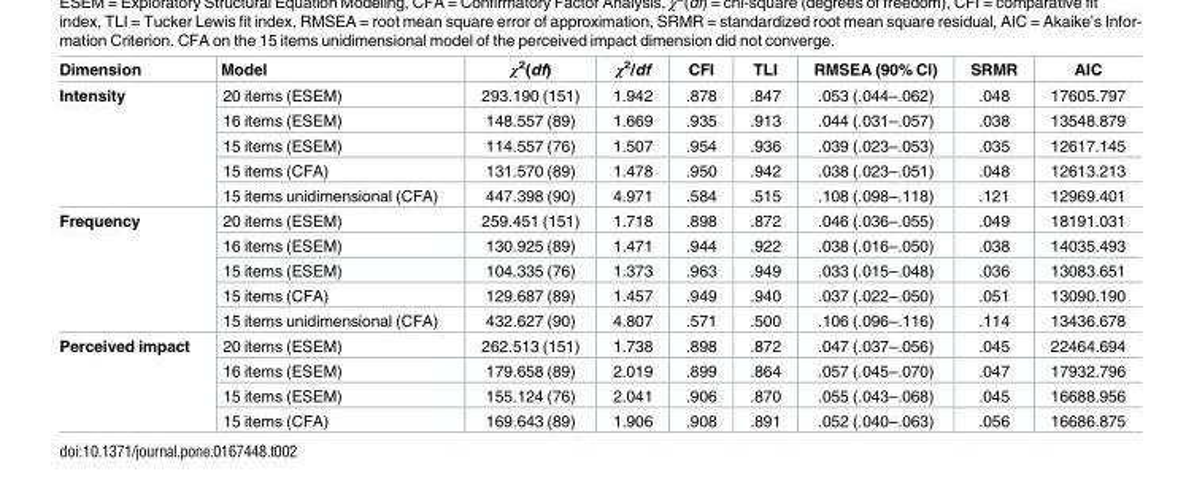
<table><thead><tr><td>Dimension</td><td>Model</td><td>χ<sup>2</sup>(df)</td><td>χ<sup>2</sup>/df</td><td>CFI</td><td>TLI</td><td>RMSEA (90% CI)</td><td>SRMR</td><td>AIC</td></tr></thead><tbody><tr><td rowspan="5">Intensity</td><td>20 items (ESEM)</td><td>293.190 (151)</td><td>1.942</td><td>.878</td><td>.847</td><td>.053 (.044–.062)</td><td>.048</td><td>17605.797</td></tr><tr><td>16 items (ESEM)</td><td>148.557 (89)</td><td>1.669</td><td>.935</td><td>.913</td><td>.044 (.031–.057)</td><td>.038</td><td>13548.879</td></tr><tr><td>15 items (ESEM)</td><td>114.557 (76)</td><td>1.507</td><td>.954</td><td>.936</td><td>.039 (.023–.053)</td><td>.035</td><td>12617.145</td></tr><tr><td>15 items (CFA)</td><td>131.570 (89)</td><td>1.478</td><td>.950</td><td>.942</td><td>.038 (.023–.051)</td><td>.048</td><td>12613.213</td></tr><tr><td>15 items unidimensional (CFA)</td><td>447.398 (90)</td><td>4.971</td><td>.584</td><td>.515</td><td>.108 (.098–.118)</td><td>.121</td><td>12969.401</td></tr><tr><td rowspan="5">Frequency</td><td>20 items (ESEM)</td><td>259.451 (151)</td><td>1.718</td><td>.898</td><td>.872</td><td>.046 (.036–.055)</td><td>.049</td><td>18191.031</td></tr><tr><td>16 items (ESEM)</td><td>130.925 (89)</td><td>1.471</td><td>.944</td><td>.922</td><td>.038 (.016–.050)</td><td>.038</td><td>14035.493</td></tr><tr><td>15 items (ESEM)</td><td>104.335 (76)</td><td>1.373</td><td>.963</td><td>.949</td><td>.033 (.015–.048)</td><td>.036</td><td>13083.651</td></tr><tr><td>15 items (CFA)</td><td>129.687 (89)</td><td>1.457</td><td>.949</td><td>.940</td><td>.037 (.022–.050)</td><td>.051</td><td>13090.190</td></tr><tr><td>15 items unidimensional (CFA)</td><td>432.627 (90)</td><td>4.807</td><td>.571</td><td>.500</td><td>.106 (.096–.116)</td><td>.114</td><td>13436.678</td></tr><tr><td rowspan="4">Perceived impact</td><td>20 items (ESEM)</td><td>262.513 (151)</td><td>1.738</td><td>.898</td><td>.872</td><td>.047 (.037–.056)</td><td>.045</td><td>22464.694</td></tr><tr><td>16 items (ESEM)</td><td>179.658 (89)</td><td>2.019</td><td>.899</td><td>.864</td><td>.057 (.045–.070)</td><td>.047</td><td>17932.796</td></tr><tr><td>15 items (ESEM)</td><td>155.124 (76)</td><td>2.041</td><td>.906</td><td>.870</td><td>.055 (.043–.068)</td><td>.045</td><td>16688.956</td></tr><tr><td>15 items (CFA)</td><td>169.643 (89)</td><td>1.906</td><td>.908</td><td>.891</td><td>.052 (.040–.063)</td><td>.056</td><td>16686.875</td></tr></tbody></table>